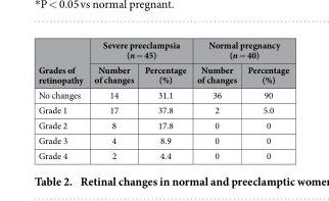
<table><thead><tr><td rowspan="2">Grades of retinopathy</td><td colspan="2">Severe preeclampsia (n = 45)</td><td colspan="2">Normal pregnancy (n = 40)</td></tr><tr><td>Number of changes</td><td>Percentage (%)</td><td>Number of changes</td><td>Percentage (%)</td></tr></thead><tbody><tr><td>No changes</td><td>14</td><td>31.1</td><td>36</td><td>90</td></tr><tr><td>Grade 1</td><td>17</td><td>37.8</td><td>2</td><td>5.0</td></tr><tr><td>Grade 2</td><td>8</td><td>17.8</td><td>0</td><td>0</td></tr><tr><td>Grade 3</td><td>4</td><td>8.9</td><td>0</td><td>0</td></tr><tr><td>Grade 4</td><td>2</td><td>4.4</td><td>0</td><td>0</td></tr></tbody></table>